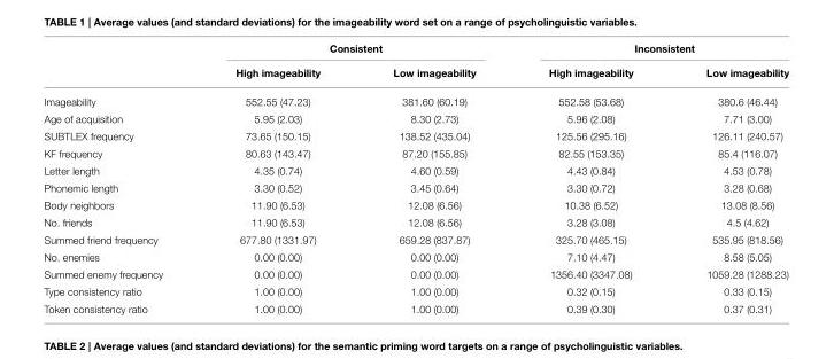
<table><thead><tr><td rowspan="2"></td><td colspan="2">Consistent</td><td colspan="2">Inconsistent</td></tr><tr><td>High imageability</td><td>Low imageability</td><td>High imageability</td><td>Low imageability</td></tr></thead><tbody><tr><td>Imageability</td><td>552.55 (47.23)</td><td>381.60 (60.19)</td><td>552.58 (53.68)</td><td>380.6 (46.44)</td></tr><tr><td>Age of acquisition</td><td>5.95 (2.03)</td><td>8.30 (2.73)</td><td>5.96 (2.08)</td><td>7.71 (3.00)</td></tr><tr><td>SUBTLEX frequency</td><td>73.65 (150.15)</td><td>138.52 (435.04)</td><td>125.56 (295.16)</td><td>126.11 (240.57)</td></tr><tr><td>KF frequency</td><td>80.63 (143.47)</td><td>87.20 (155.85)</td><td>82.55 (153.35)</td><td>85.4 (116.07)</td></tr><tr><td>Letter length</td><td>4.35 (0.74)</td><td>4.60 (0.59)</td><td>4.43 (0.84)</td><td>4.53 (0.78)</td></tr><tr><td>Phonemic length</td><td>3.30 (0.52)</td><td>3.45 (0.64)</td><td>3.30 (0.72)</td><td>3.28 (0.68)</td></tr><tr><td>Body neighbors</td><td>11.90 (6.53)</td><td>12.08 (6.56)</td><td>10.38 (6.52)</td><td>13.08 (8.56)</td></tr><tr><td>No. friends</td><td>11.90 (6.53)</td><td>12.08 (6.56)</td><td>3.28 (3.08)</td><td>4.5 (4.62)</td></tr><tr><td>Summed friend frequency</td><td>677.80 (1331.97)</td><td>659.28 (837.87)</td><td>325.70 (465.15)</td><td>535.95 (818.56)</td></tr><tr><td>No. enemies</td><td>0.00 (0.00)</td><td>0.00 (0.00)</td><td>7.10 (4.47)</td><td>8.58 (5.05)</td></tr><tr><td>Summed enemy frequency</td><td>0.00 (0.00)</td><td>0.00 (0.00)</td><td>1356.40 (3347.08)</td><td>1059.28 (1288.23)</td></tr><tr><td>Type consistency ratio</td><td>1.00 (0.00)</td><td>1.00 (0.00)</td><td>0.32 (0.15)</td><td>0.33 (0.15)</td></tr><tr><td>Token consistency ratio</td><td>1.00 (0.00)</td><td>1.00 (0.00)</td><td>0.39 (0.30)</td><td>0.37 (0.31)</td></tr></tbody></table>